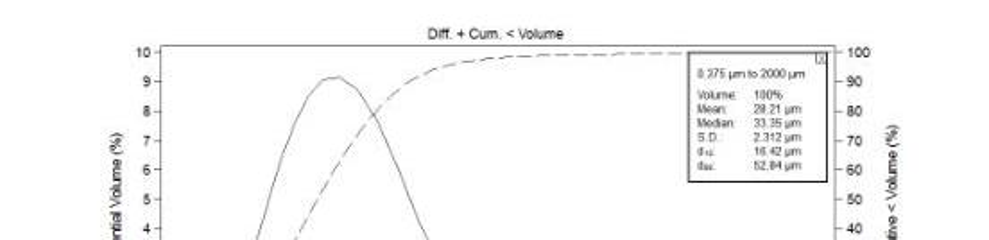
<table><thead><tr><td>Primary Gas (Ar), Flow Rate (L/min)</td><td>Secondary Gas (H), Flow Rate (L/min)</td><td>Powder Carrier Gas (Ar), Flow Rate (L/min)</td><td>Arc Current (A)</td><td>Stand-off Distance (mm)</td><td>Torch Speed (mm/s)</td></tr></thead><tbody><tr><td>50</td><td>1</td><td>3.65</td><td>500</td><td>80</td><td>600</td></tr></tbody></table>